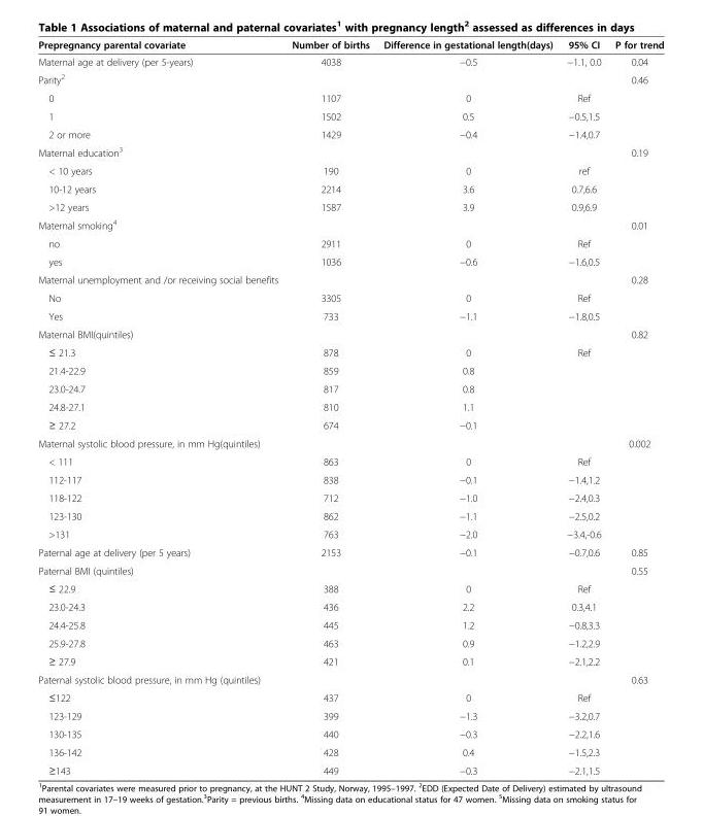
<table><thead><tr><td>Prepregnancy parental covariate</td><td>Number of births</td><td>Difference in gestational length(days)</td><td>95% CI</td><td>P for trend</td></tr></thead><tbody><tr><td>Maternal age at delivery (per 5-years)</td><td>4038</td><td>−0.5</td><td>−1.1, 0.0</td><td>0.04</td></tr><tr><td>Parity<sup>2</sup></td><td></td><td></td><td></td><td>0.46</td></tr><tr><td>0</td><td>1107</td><td>0</td><td>Ref</td><td></td></tr><tr><td>1</td><td>1502</td><td>0.5</td><td>−0.5,1.5</td><td></td></tr><tr><td>2 or more</td><td>1429</td><td>−0.4</td><td>−1.4,0.7</td><td></td></tr><tr><td>Maternal education<sup>3</sup></td><td></td><td></td><td></td><td>0.19</td></tr><tr><td>&lt; 10 years</td><td>190</td><td>0</td><td>ref</td><td></td></tr><tr><td>10-12 years</td><td>2214</td><td>3.6</td><td>0.7,6.6</td><td></td></tr><tr><td>&gt;12 years</td><td>1587</td><td>3.9</td><td>0.9,6.9</td><td></td></tr><tr><td>Maternal smoking<sup>4</sup></td><td></td><td></td><td></td><td>0.01</td></tr><tr><td>no</td><td>2911</td><td>0</td><td>Ref</td><td></td></tr><tr><td>yes</td><td>1036</td><td>−0.6</td><td>−1.6,0.5</td><td></td></tr><tr><td>Maternal unemployment and /or receiving social benefits</td><td></td><td></td><td></td><td>0.28</td></tr><tr><td>No</td><td>3305</td><td>0</td><td>Ref</td><td></td></tr><tr><td>Yes</td><td>733</td><td>−1.1</td><td>−1.8,0.5</td><td></td></tr><tr><td>Maternal BMI(quintiles)</td><td></td><td></td><td></td><td>0.82</td></tr><tr><td>≤ 21.3</td><td>878</td><td>0</td><td>Ref</td><td></td></tr><tr><td>21.4-22.9</td><td>859</td><td>0.8</td><td></td><td></td></tr><tr><td>23.0-24.7</td><td>817</td><td>0.8</td><td></td><td></td></tr><tr><td>24.8-27.1</td><td>810</td><td>1.1</td><td></td><td></td></tr><tr><td>≥ 27.2</td><td>674</td><td>−0.1</td><td></td><td></td></tr><tr><td>Maternal systolic blood pressure, in mm Hg(quintiles)</td><td></td><td></td><td></td><td>0.002</td></tr><tr><td>&lt; 111</td><td>863</td><td>0</td><td>Ref</td><td></td></tr><tr><td>112-117</td><td>838</td><td>−0.1</td><td>−1.4,1.2</td><td></td></tr><tr><td>118-122</td><td>712</td><td>−1.0</td><td>−2.4,0.3</td><td></td></tr><tr><td>123-130</td><td>862</td><td>−1.1</td><td>−2.5,0.2</td><td></td></tr><tr><td>&gt;131</td><td>763</td><td>−2.0</td><td>−3.4,-0.6</td><td></td></tr><tr><td>Paternal age at delivery (per 5 years)</td><td>2153</td><td>−0.1</td><td>−0.7,0.6</td><td>0.85</td></tr><tr><td>Paternal BMI (quintiles)</td><td></td><td></td><td></td><td>0.55</td></tr><tr><td>≤ 22.9</td><td>388</td><td>0</td><td>Ref</td><td></td></tr><tr><td>23.0-24.3</td><td>436</td><td>2.2</td><td>0.3,4.1</td><td></td></tr><tr><td>24.4-25.8</td><td>445</td><td>1.2</td><td>−0.8,3.3</td><td></td></tr><tr><td>25.9-27.8</td><td>463</td><td>0.9</td><td>−1.2,2.9</td><td></td></tr><tr><td>≥ 27.9</td><td>421</td><td>0.1</td><td>−2.1,2.2</td><td></td></tr><tr><td>Paternal systolic blood pressure, in mm Hg (quintiles)</td><td></td><td></td><td></td><td>0.63</td></tr><tr><td>≤122</td><td>437</td><td>0</td><td>Ref</td><td></td></tr><tr><td>123-129</td><td>399</td><td>−1.3</td><td>−3.2,0.7</td><td></td></tr><tr><td>130-135</td><td>440</td><td>−0.3</td><td>−2.2,1.6</td><td></td></tr><tr><td>136-142</td><td>428</td><td>0.4</td><td>−1.5,2.3</td><td></td></tr><tr><td>≥143</td><td>449</td><td>−0.3</td><td>−2.1,1.5</td><td></td></tr></tbody></table>